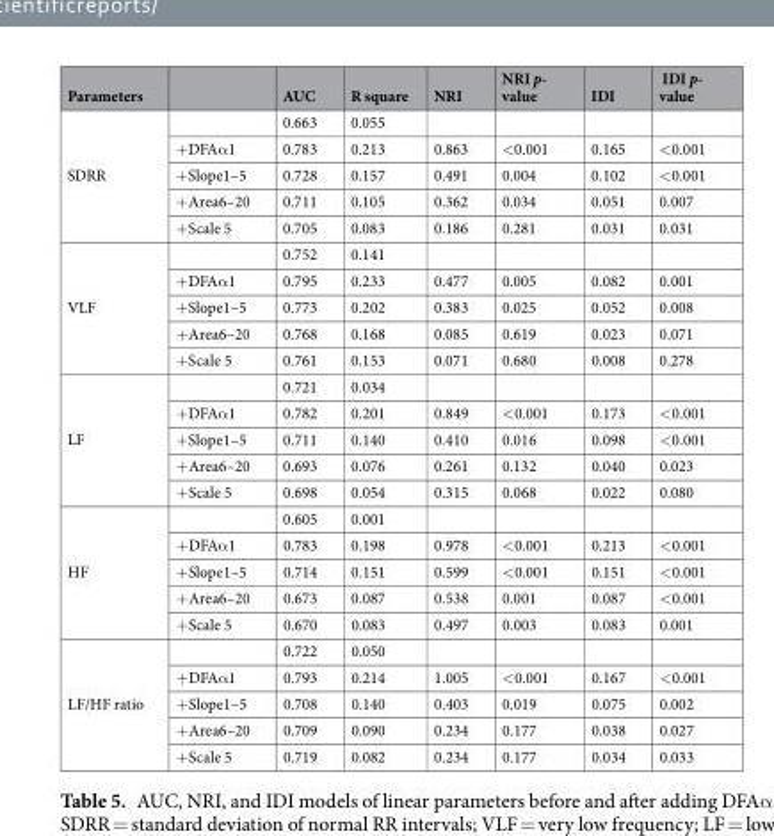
<table><thead><tr><td>Parameters</td><td></td><td>AUC</td><td>R square</td><td>NRI</td><td>NRI p- value</td><td>IDI</td><td>IDI p- value</td></tr></thead><tbody><tr><td rowspan="5">SDRR</td><td></td><td>0.663</td><td>0.055</td><td></td><td></td><td></td><td></td></tr><tr><td>+DFAα1</td><td>0.783</td><td>0.213</td><td>0.863</td><td>&lt;0.001</td><td>0.165</td><td>&lt;0.001</td></tr><tr><td>+Slope1–5</td><td>0.728</td><td>0.157</td><td>0.491</td><td>0.004</td><td>0.102</td><td>&lt;0.001</td></tr><tr><td>+Area6–20</td><td>0.711</td><td>0.105</td><td>0.362</td><td>0.034</td><td>0.051</td><td>0.007</td></tr><tr><td>+Scale 5</td><td>0.705</td><td>0.083</td><td>0.186</td><td>0.281</td><td>0.031</td><td>0.031</td></tr><tr><td rowspan="5">VLF</td><td></td><td>0.752</td><td>0.141</td><td></td><td></td><td></td><td></td></tr><tr><td>+DFAα1</td><td>0.795</td><td>0.233</td><td>0.477</td><td>0.005</td><td>0.082</td><td>0.001</td></tr><tr><td>+Slope1–5</td><td>0.773</td><td>0.202</td><td>0.383</td><td>0.025</td><td>0.052</td><td>0.008</td></tr><tr><td>+Area6–20</td><td>0.768</td><td>0.168</td><td>0.085</td><td>0.619</td><td>0.023</td><td>0.071</td></tr><tr><td>+Scale 5</td><td>0.761</td><td>0.153</td><td>0.071</td><td>0.680</td><td>0.008</td><td>0.278</td></tr><tr><td rowspan="5">LF</td><td></td><td>0.721</td><td>0.034</td><td></td><td></td><td></td><td></td></tr><tr><td>+DFAα1</td><td>0.782</td><td>0.201</td><td>0.849</td><td>&lt;0.001</td><td>0.173</td><td>&lt;0.001</td></tr><tr><td>+Slope1–5</td><td>0.711</td><td>0.140</td><td>0.410</td><td>0.016</td><td>0.098</td><td>&lt;0.001</td></tr><tr><td>+Area6–20</td><td>0.693</td><td>0.076</td><td>0.261</td><td>0.132</td><td>0.040</td><td>0.023</td></tr><tr><td>+Scale 5</td><td>0.698</td><td>0.054</td><td>0.315</td><td>0.068</td><td>0.022</td><td>0.080</td></tr><tr><td rowspan="5">HF</td><td></td><td>0.605</td><td>0.001</td><td></td><td></td><td></td><td></td></tr><tr><td>+DFAα1</td><td>0.783</td><td>0.198</td><td>0.978</td><td>&lt;0.001</td><td>0.213</td><td>&lt;0.001</td></tr><tr><td>+Slope1–5</td><td>0.714</td><td>0.151</td><td>0.599</td><td>&lt;0.001</td><td>0.151</td><td>&lt;0.001</td></tr><tr><td>+Area6–20</td><td>0.673</td><td>0.087</td><td>0.538</td><td>0.001</td><td>0.087</td><td>&lt;0.001</td></tr><tr><td>+Scale 5</td><td>0.670</td><td>0.083</td><td>0.497</td><td>0.003</td><td>0.083</td><td>0.001</td></tr><tr><td rowspan="5">LF/HF ratio</td><td></td><td>0.722</td><td>0.050</td><td></td><td></td><td></td><td></td></tr><tr><td>+DFAα1</td><td>0.793</td><td>0.214</td><td>1.005</td><td>&lt;0.001</td><td>0.167</td><td>&lt;0.001</td></tr><tr><td>+Slope1–5</td><td>0.708</td><td>0.140</td><td>0.403</td><td>0.019</td><td>0.075</td><td>0.002</td></tr><tr><td>+Area6–20</td><td>0.709</td><td>0.090</td><td>0.234</td><td>0.177</td><td>0.038</td><td>0.027</td></tr><tr><td>+Scale 5</td><td>0.719</td><td>0.082</td><td>0.234</td><td>0.177</td><td>0.034</td><td>0.033</td></tr></tbody></table>